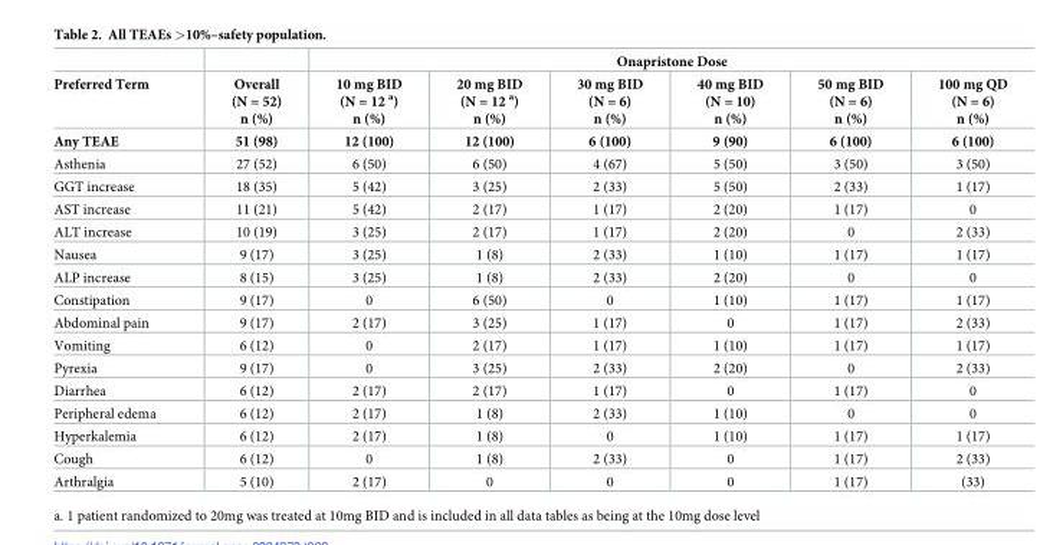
<table><thead><tr><td rowspan="2">Preferred Term</td><td rowspan="2">Overall (N = 52) n (%)</td><td colspan="6">Onapristone Dose</td></tr><tr><td>10 mg BID (N = 12 <sup>a</sup>) n (%)</td><td>20 mg BID (N = 12 <sup>a</sup>) n (%)</td><td>30 mg BID (N = 6) n (%)</td><td>40 mg BID (N = 10) n (%)</td><td>50 mg BID (N = 6) n (%)</td><td>100 mg QD (N = 6) n (%)</td></tr></thead><tbody><tr><td>Any TEAE</td><td>51 (98)</td><td>12 (100)</td><td>12 (100)</td><td>6 (100)</td><td>9 (90)</td><td>6 (100)</td><td>6 (100)</td></tr><tr><td>Asthenia</td><td>27 (52)</td><td>6 (50)</td><td>6 (50)</td><td>4 (67)</td><td>5 (50)</td><td>3 (50)</td><td>3 (50)</td></tr><tr><td>GGT increase</td><td>18 (35)</td><td>5 (42)</td><td>3 (25)</td><td>2 (33)</td><td>5 (50)</td><td>2 (33)</td><td>1 (17)</td></tr><tr><td>AST increase</td><td>11 (21)</td><td>5 (42)</td><td>2 (17)</td><td>1 (17)</td><td>2 (20)</td><td>1 (17)</td><td>0</td></tr><tr><td>ALT increase</td><td>10 (19)</td><td>3 (25)</td><td>2 (17)</td><td>1 (17)</td><td>2 (20)</td><td>0</td><td>2 (33)</td></tr><tr><td>Nausea</td><td>9 (17)</td><td>3 (25)</td><td>1 (8)</td><td>2 (33)</td><td>1 (10)</td><td>1 (17)</td><td>1 (17)</td></tr><tr><td>ALP increase</td><td>8 (15)</td><td>3 (25)</td><td>1 (8)</td><td>2 (33)</td><td>2 (20)</td><td>0</td><td>0</td></tr><tr><td>Constipation</td><td>9 (17)</td><td>0</td><td>6 (50)</td><td>0</td><td>1 (10)</td><td>1 (17)</td><td>1 (17)</td></tr><tr><td>Abdominal pain</td><td>9 (17)</td><td>2 (17)</td><td>3 (25)</td><td>1 (17)</td><td>0</td><td>1 (17)</td><td>2 (33)</td></tr><tr><td>Vomiting</td><td>6 (12)</td><td>0</td><td>2 (17)</td><td>1 (17)</td><td>1 (10)</td><td>1 (17)</td><td>1 (17)</td></tr><tr><td>Pyrexia</td><td>9 (17)</td><td>0</td><td>3 (25)</td><td>2 (33)</td><td>2 (20)</td><td>0</td><td>2 (33)</td></tr><tr><td>Diarrhea</td><td>6 (12)</td><td>2 (17)</td><td>2 (17)</td><td>1 (17)</td><td>0</td><td>1 (17)</td><td>0</td></tr><tr><td>Peripheral edema</td><td>6 (12)</td><td>2 (17)</td><td>1 (8)</td><td>2 (33)</td><td>1 (10)</td><td>0</td><td>0</td></tr><tr><td>Hyperkalemia</td><td>6 (12)</td><td>2 (17)</td><td>1 (8)</td><td>0</td><td>1 (10)</td><td>1 (17)</td><td>1 (17)</td></tr><tr><td>Cough</td><td>6 (12)</td><td>0</td><td>1 (8)</td><td>2 (33)</td><td>0</td><td>1 (17)</td><td>2 (33)</td></tr><tr><td>Arthralgia</td><td>5 (10)</td><td>2 (17)</td><td>0</td><td>0</td><td>0</td><td>1 (17)</td><td>(33)</td></tr></tbody></table>